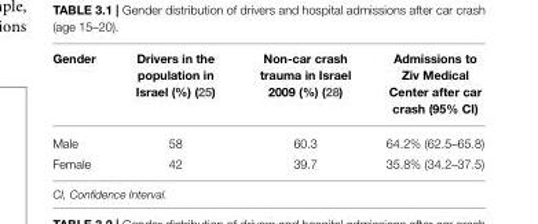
<table><thead><tr><td>Gender</td><td>Drivers in the population in Israel (%) (25)</td><td>Non-car crash trauma in Israel 2009 (%) (28)</td><td>Admissions to Ziv Medical Center after car crash (95% CI)</td></tr></thead><tbody><tr><td>Male</td><td>58</td><td>60.3</td><td>64.2% (62.5–65.8)</td></tr><tr><td>Female</td><td>42</td><td>39.7</td><td>35.8% (34.2–37.5)</td></tr></tbody></table>